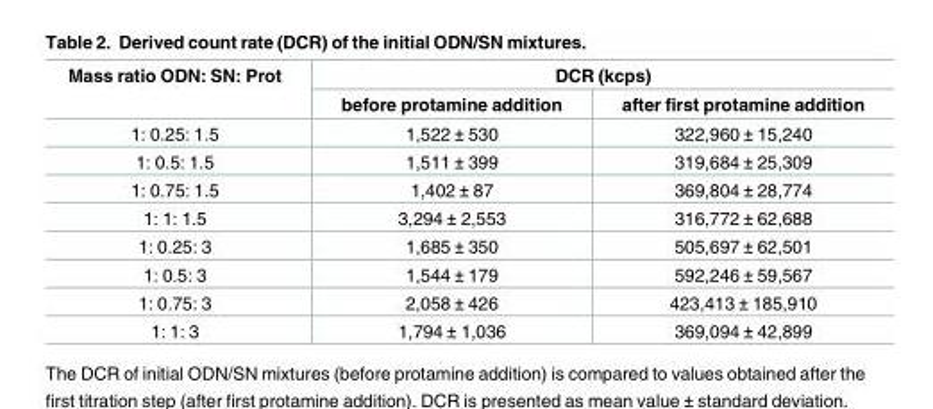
<table><thead><tr><td rowspan="2">Mass ratio ODN: SN: Prot</td><td colspan="2">DCR (kcps)</td></tr><tr><td>before protamine addition</td><td>after first protamine addition</td></tr></thead><tbody><tr><td>1: 0.25: 1.5</td><td>1,522 ± 530</td><td>322,960 ± 15,240</td></tr><tr><td>1: 0.5: 1.5</td><td>1,511 ± 399</td><td>319,684 ± 25,309</td></tr><tr><td>1: 0.75: 1.5</td><td>1,402 ± 87</td><td>369,804 ± 28,774</td></tr><tr><td>1: 1: 1.5</td><td>3,294 ± 2,553</td><td>316,772 ± 62,688</td></tr><tr><td>1: 0.25: 3</td><td>1,685 ± 350</td><td>505,697 ± 62,501</td></tr><tr><td>1: 0.5: 3</td><td>1,544 ± 179</td><td>592,246 ± 59,567</td></tr><tr><td>1: 0.75: 3</td><td>2,058 ± 426</td><td>423,413 ± 185,910</td></tr><tr><td>1: 1: 3</td><td>1,794 ± 1,036</td><td>369,094 ± 42,899</td></tr></tbody></table>